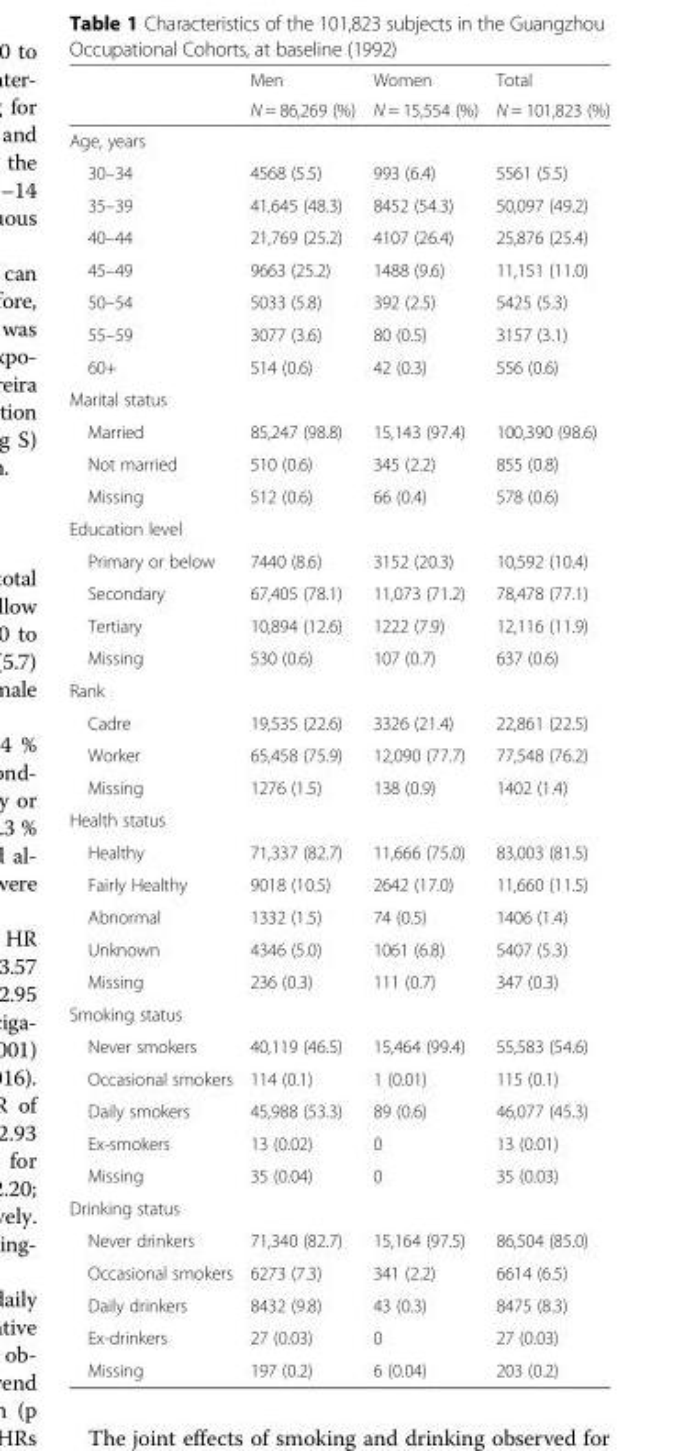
<table><thead><tr><td rowspan="2"></td><td rowspan="2">Men N = 86,269 (%)</td><td rowspan="2">Women N = 15,554 (%)</td><td rowspan="2">Total N = 101,823 (%)</td></tr><tr></tr></thead><tbody><tr><td colspan="4">Age, years</td></tr><tr><td>30–34</td><td>4568 (5.5)</td><td>993 (6.4)</td><td>5561 (5.5)</td></tr><tr><td>35–39</td><td>41,645 (48.3)</td><td>8452 (54.3)</td><td>50,097 (49.2)</td></tr><tr><td>40–44</td><td>21,769 (25.2)</td><td>4107 (26.4)</td><td>25,876 (25.4)</td></tr><tr><td>45–49</td><td>9663 (25.2)</td><td>1488 (9.6)</td><td>11,151 (11.0)</td></tr><tr><td>50–54</td><td>5033 (5.8)</td><td>392 (2.5)</td><td>5425 (5.3)</td></tr><tr><td>55–59</td><td>3077 (3.6)</td><td>80 (0.5)</td><td>3157 (3.1)</td></tr><tr><td>60+</td><td>514 (0.6)</td><td>42 (0.3)</td><td>556 (0.6)</td></tr><tr><td colspan="4">Marital status</td></tr><tr><td>Married</td><td>85,247 (98.8)</td><td>15,143 (97.4)</td><td>100,390 (98.6)</td></tr><tr><td>Not married</td><td>510 (0.6)</td><td>345 (2.2)</td><td>855 (0.8)</td></tr><tr><td>Missing</td><td>512 (0.6)</td><td>66 (0.4)</td><td>578 (0.6)</td></tr><tr><td colspan="4">Education level</td></tr><tr><td>Primary or below</td><td>7440 (8.6)</td><td>3152 (20.3)</td><td>10,592 (10.4)</td></tr><tr><td>Secondary</td><td>67,405 (78.1)</td><td>11,073 (71.2)</td><td>78,478 (77.1)</td></tr><tr><td>Tertiary</td><td>10,894 (12.6)</td><td>1222 (7.9)</td><td>12,116 (11.9)</td></tr><tr><td>Missing</td><td>530 (0.6)</td><td>107 (0.7)</td><td>637 (0.6)</td></tr><tr><td colspan="4">Rank</td></tr><tr><td>Cadre</td><td>19,535 (22.6)</td><td>3326 (21.4)</td><td>22,861 (22.5)</td></tr><tr><td>Worker</td><td>65,458 (75.9)</td><td>12,090 (77.7)</td><td>77,548 (76.2)</td></tr><tr><td>Missing</td><td>1276 (1.5)</td><td>138 (0.9)</td><td>1402 (1.4)</td></tr><tr><td colspan="4">Health status</td></tr><tr><td>Healthy</td><td>71,337 (82.7)</td><td>11,666 (75.0)</td><td>83,003 (81.5)</td></tr><tr><td>Fairly Healthy</td><td>9018 (10.5)</td><td>2642 (17.0)</td><td>11,660 (11.5)</td></tr><tr><td>Abnormal</td><td>1332 (1.5)</td><td>74 (0.5)</td><td>1406 (1.4)</td></tr><tr><td>Unknown</td><td>4346 (5.0)</td><td>1061 (6.8)</td><td>5407 (5.3)</td></tr><tr><td>Missing</td><td>236 (0.3)</td><td>111 (0.7)</td><td>347 (0.3)</td></tr><tr><td colspan="4">Smoking status</td></tr><tr><td>Never smokers</td><td>40,119 (46.5)</td><td>15,464 (99.4)</td><td>55,583 (54.6)</td></tr><tr><td>Occasional smokers</td><td>114 (0.1)</td><td>1 (0.01)</td><td>115 (0.1)</td></tr><tr><td>Daily smokers</td><td>45,988 (53.3)</td><td>89 (0.6)</td><td>46,077 (45.3)</td></tr><tr><td>Ex-smokers</td><td>13 (0.02)</td><td>0</td><td>13 (0.01)</td></tr><tr><td>Missing</td><td>35 (0.04)</td><td>0</td><td>35 (0.03)</td></tr><tr><td colspan="4">Drinking status</td></tr><tr><td>Never drinkers</td><td>71,340 (82.7)</td><td>15,164 (97.5)</td><td>86,504 (85.0)</td></tr><tr><td>Occasional smokers</td><td>6273 (7.3)</td><td>341 (2.2)</td><td>6614 (6.5)</td></tr><tr><td>Daily drinkers</td><td>8432 (9.8)</td><td>43 (0.3)</td><td>8475 (8.3)</td></tr><tr><td>Ex-drinkers</td><td>27 (0.03)</td><td>0</td><td>27 (0.03)</td></tr><tr><td>Missing</td><td>197 (0.2)</td><td>6 (0.04)</td><td>203 (0.2)</td></tr></tbody></table>